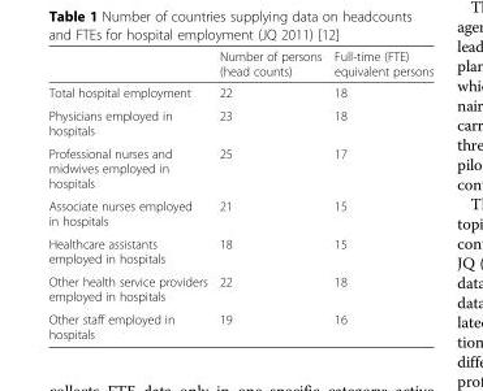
<table><thead><tr><td></td><td>Number of persons (head counts)</td><td>Full-time (FTE) equivalent persons</td></tr></thead><tbody><tr><td>Total hospital employment</td><td>22</td><td>18</td></tr><tr><td>Physicians employed in hospitals</td><td>23</td><td>18</td></tr><tr><td>Professional nurses and midwives employed in hospitals</td><td>25</td><td>17</td></tr><tr><td>Associate nurses employed in hospitals</td><td>21</td><td>15</td></tr><tr><td>Healthcare assistants employed in hospitals</td><td>18</td><td>15</td></tr><tr><td>Other health service providers employed in hospitals</td><td>22</td><td>18</td></tr><tr><td>Other staff employed in hospitals</td><td>19</td><td>16</td></tr></tbody></table>